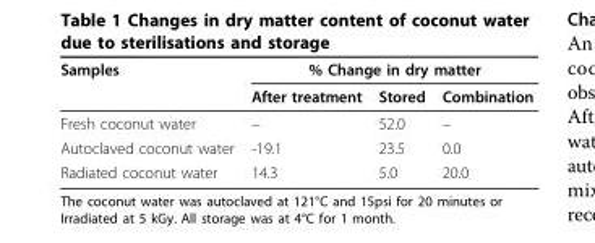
<table><thead><tr><td rowspan="2">Samples</td><td colspan="3">% Change in dry matter</td></tr><tr><td>After treatment</td><td>Stored</td><td>Combination</td></tr></thead><tbody><tr><td>Fresh coconut water</td><td>–</td><td>52.0</td><td>–</td></tr><tr><td>Autoclaved coconut water</td><td>-19.1</td><td>23.5</td><td>0.0</td></tr><tr><td>Radiated coconut water</td><td>14.3</td><td>5.0</td><td>20.0</td></tr></tbody></table>